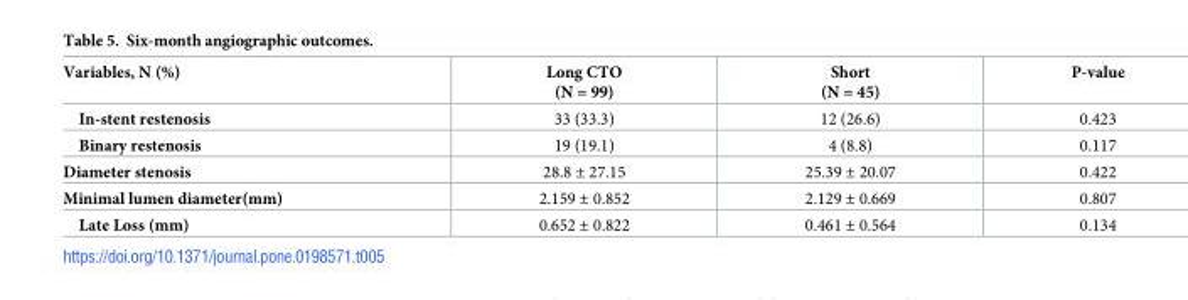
<table><thead><tr><td>Variables, N (%)</td><td>Long CTO (N = 99)</td><td>Short (N = 45)</td><td>P-value</td></tr></thead><tbody><tr><td>In-stent restenosis</td><td>33 (33.3)</td><td>12 (26.6)</td><td>0.423</td></tr><tr><td>Binary restenosis</td><td>19 (19.1)</td><td>4 (8.8)</td><td>0.117</td></tr><tr><td>Diameter stenosis</td><td>28.8 ± 27.15</td><td>25.39 ± 20.07</td><td>0.422</td></tr><tr><td>Minimal lumen diameter(mm)</td><td>2.159 ± 0.852</td><td>2.129 ± 0.669</td><td>0.807</td></tr><tr><td>Late Loss (mm)</td><td>0.652 ± 0.822</td><td>0.461 ± 0.564</td><td>0.134</td></tr></tbody></table>